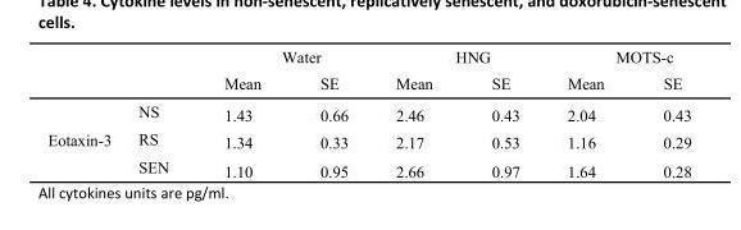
<table><thead><tr><td rowspan="2"></td><td rowspan="2"></td><td colspan="2">Water</td><td colspan="2">HNG</td><td colspan="2">MOTS-c</td></tr><tr><td>Mean</td><td>SE</td><td>Mean</td><td>SE</td><td>Mean</td><td>SE</td></tr></thead><tbody><tr><td rowspan="3">Eotaxin-3</td><td>NS</td><td>1.43</td><td>0.66</td><td>2.46</td><td>0.43</td><td>2.04</td><td>0.43</td></tr><tr><td>RS</td><td>1.34</td><td>0.33</td><td>2.17</td><td>0.53</td><td>1.16</td><td>0.29</td></tr><tr><td>SEN</td><td>1.10</td><td>0.95</td><td>2.66</td><td>0.97</td><td>1.64</td><td>0.28</td></tr></tbody></table>